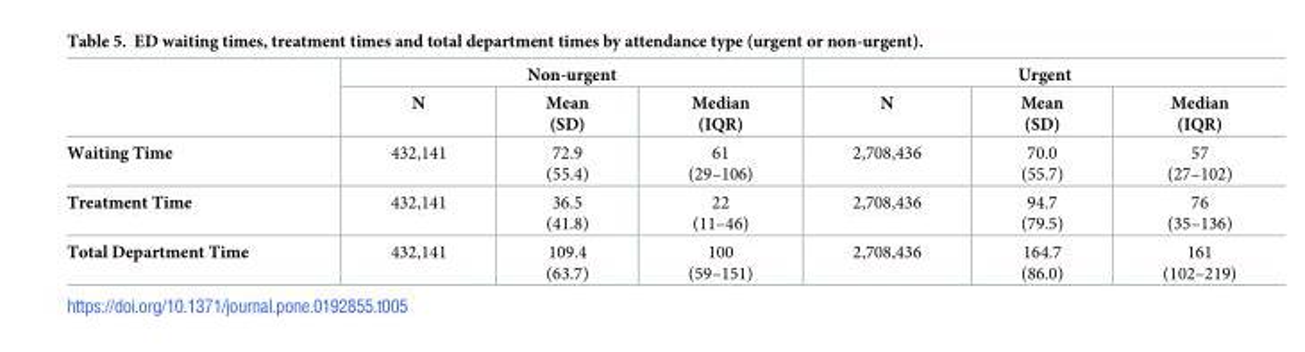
<table><thead><tr><td rowspan="2"></td><td colspan="3">Non-urgent</td><td colspan="3">Urgent</td></tr><tr><td>N</td><td>Mean (SD)</td><td>Median (IQR)</td><td>N</td><td>Mean (SD)</td><td>Median (IQR)</td></tr></thead><tbody><tr><td>Waiting Time</td><td>432,141</td><td>72.9 (55.4)</td><td>61 (29–106)</td><td>2,708,436</td><td>70.0 (55.7)</td><td>57 (27–102)</td></tr><tr><td>Treatment Time</td><td>432,141</td><td>36.5 (41.8)</td><td>22 (11–46)</td><td>2,708,436</td><td>94.7 (79.5)</td><td>76 (35–136)</td></tr><tr><td>Total Department Time</td><td>432,141</td><td>109.4 (63.7)</td><td>100 (59–151)</td><td>2,708,436</td><td>164.7 (86.0)</td><td>161 (102–219)</td></tr></tbody></table>